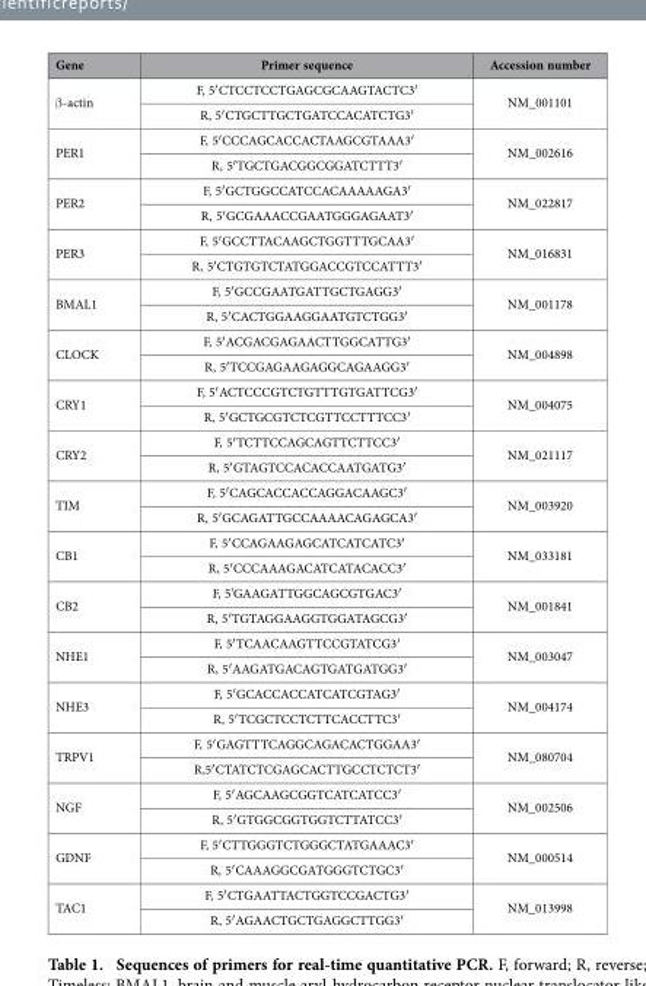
<table><thead><tr><td>Gene</td><td>Primer sequence</td><td>Accession number</td></tr></thead><tbody><tr><td rowspan="2">β -actin</td><td>F, 5′ CTCCTCCTGAGCGCAAGTACTC3′</td><td rowspan="2">NM_001101</td></tr><tr><td>R, 5′ CTGCTTGCTGATCCACATCTG3′</td></tr><tr><td rowspan="2">PER1</td><td>F, 5′ CCCAGCACCACTAAGCGTAAA3′</td><td rowspan="2">NM_002616</td></tr><tr><td>R, 5′ TGCTGACGGCGGATCTTT3′</td></tr><tr><td rowspan="2">PER2</td><td>F, 5′ GCTGGCCATCCACAAAAAGA3′</td><td rowspan="2">NM_022817</td></tr><tr><td>R, 5′ GCGAAACCGAATGGGAGAAT3′</td></tr><tr><td rowspan="2">PER3</td><td>F, 5′ GCCTTACAAGCTGGTTTGCAA3′</td><td rowspan="2">NM_016831</td></tr><tr><td>R, 5′ CTGTGTCTATGGACCGTCCATTT3′</td></tr><tr><td rowspan="2">BMAL1</td><td>F, 5′ GCCGAATGATTGCTGAGG3′</td><td rowspan="2">NM_001178</td></tr><tr><td>R, 5′ CACTGGAAGGAATGTCTGG3′</td></tr><tr><td rowspan="2">CLOCK</td><td>F, 5′ ACGACGAGAACTTGGCATTG3′</td><td rowspan="2">NM_004898</td></tr><tr><td>R, 5′ TCCGAGAAGAGGCAGAAGG3′</td></tr><tr><td rowspan="2">CRY1</td><td>F, 5′ ACTCCCGTCTGTTTGTGATTCG3′</td><td rowspan="2">NM_004075</td></tr><tr><td>R, 5′ GCTGCGTCTCGTTCCTTTCC3′</td></tr><tr><td rowspan="2">CRY2</td><td>F, 5′ TCTTCCAGCAGTTCTTCC3′</td><td rowspan="2">NM_021117</td></tr><tr><td>R, 5′ GTAGTCCACACCAATGATG3′</td></tr><tr><td rowspan="2">TIM</td><td>F, 5′ CAGCACCACCAGGACAAGC3′</td><td rowspan="2">NM_003920</td></tr><tr><td>R, 5′ GCAGATTGCCAAAACAGAGCA3′</td></tr><tr><td rowspan="2">CB1</td><td>F, 5′ CCAGAAGAGCATCATCATC3′</td><td rowspan="2">NM_033181</td></tr><tr><td>R, 5′ CCCAAAGACATCATACACC3′</td></tr><tr><td rowspan="2">CB2</td><td>F, 5’GAAGATTGGCAGCGTGAC3′</td><td rowspan="2">NM_001841</td></tr><tr><td>R, 5′ TGTAGGAAGGTGGATAGCG3′</td></tr><tr><td rowspan="2">NHE1</td><td>F, 5′ TCAACAAGTTCCGTATCG3′</td><td rowspan="2">NM_003047</td></tr><tr><td>R, 5′ AAGATGACAGTGATGATGG3′</td></tr><tr><td rowspan="2">NHE3</td><td>F, 5′ GCACCACCATCATCGTAG3′</td><td rowspan="2">NM_004174</td></tr><tr><td>R, 5′ TCGCTCCTCTTCACCTTC3′</td></tr><tr><td rowspan="2">TRPV1</td><td>F, 5′ GAGTTTCAGGCAGACACTGGAA3′</td><td rowspan="2">NM_080704</td></tr><tr><td>R,5′ CTATCTCGAGCACTTGCCTCTCT3′</td></tr><tr><td rowspan="2">NGF</td><td>F, 5′ AGCAAGCGGTCATCATCC3′</td><td rowspan="2">NM_002506</td></tr><tr><td>R, 5′ GTGGCGGTGGTCTTATCC3′</td></tr><tr><td rowspan="2">GDNF</td><td>F, 5′ CTTGGGTCTGGGCTATGAAAC3′</td><td rowspan="2">NM_000514</td></tr><tr><td>R, 5′ CAAAGGCGATGGGTCTGC3′</td></tr><tr><td rowspan="2">TAC1</td><td>F, 5′ CTGAATTACTGGTCCGACTG3′</td><td rowspan="2">NM_013998</td></tr><tr><td>R, 5′ AGAACTGCTGAGGCTTGG3′</td></tr></tbody></table>